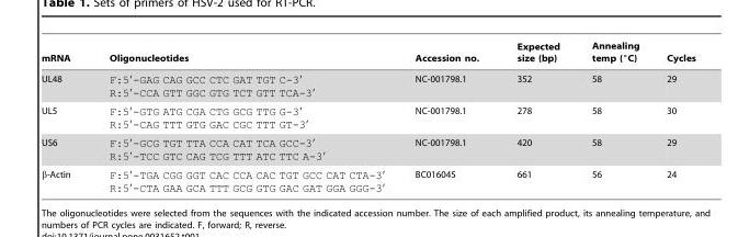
<table><thead><tr><td>mRNA</td><td>Oligonucleotides</td><td>Accession no.</td><td>Expected size (bp)</td><td>Annealing temp (°C)</td><td>Cycles</td></tr></thead><tbody><tr><td>UL48</td><td>F:5′-GAG CAG GCC CTC GAT TGT C-3′ R:5′-CCA GTT GGC GTG TCT GTT TCA-3′</td><td>NC-001798.1</td><td>352</td><td>58</td><td>29</td></tr><tr><td>UL5</td><td>F:5′-GTG ATG CGA CTG GCG TTG G-3′ R:5′-CAG TTT GTG GAC CGC TTT GT-3′</td><td>NC-001798.1</td><td>278</td><td>58</td><td>30</td></tr><tr><td>US6</td><td>F:5′-GCG TGT TTA CCA CAT TCA GCC-3′ R:5′-TCC GTC CAG TCG TTT ATC TTC A-3′</td><td>NC-001798.1</td><td>420</td><td>58</td><td>29</td></tr><tr><td>β-Actin</td><td>F:5′-TGA CGG GGT CAC CCA CAC TGT GCC CAT CTA-3′ R:5′-CTA GAA GCA TTT GCG GTG GAC GAT GGA GGG-3′</td><td>BC016045</td><td>661</td><td>56</td><td>24</td></tr></tbody></table>